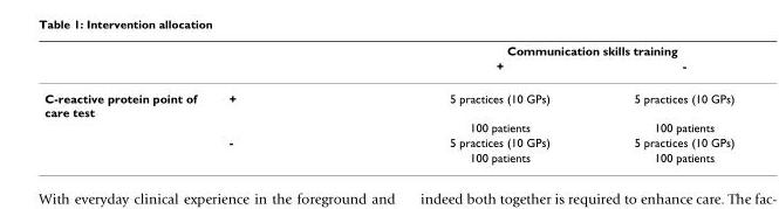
<table><thead><tr><td rowspan="2"></td><td rowspan="2"></td><td colspan="2">Communication skills training</td></tr><tr><td>+</td><td>-</td></tr></thead><tbody><tr><td rowspan="4">C-reactive protein point of care test</td><td>+</td><td>5 practices (10 GPs)</td><td>5 practices (10 GPs)</td></tr><tr><td></td><td>100 patients</td><td>100 patients</td></tr><tr><td>-</td><td>5 practices (10 GPs)</td><td>5 practices (10 GPs)</td></tr><tr><td></td><td>100 patients</td><td>100 patients</td></tr></tbody></table>